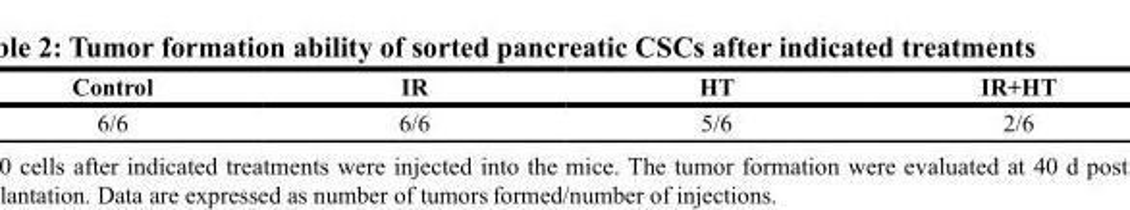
<table><thead><tr><td>Control</td><td>IR</td><td>HT</td><td>IR+HT</td></tr></thead><tbody><tr><td>6/6</td><td>6/6</td><td>5/6</td><td>2/6</td></tr></tbody></table>